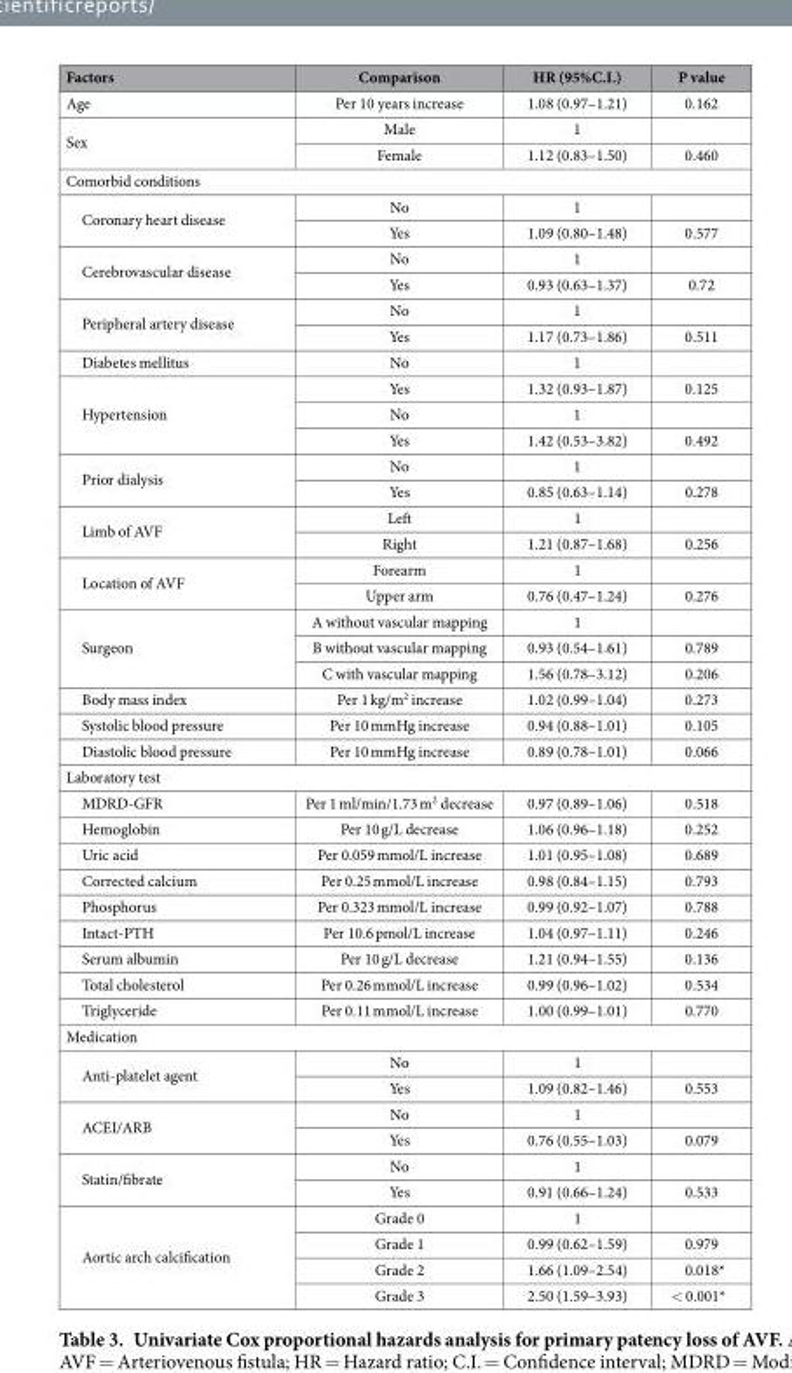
<table><thead><tr><td>Factors</td><td>Comparison</td><td>HR (95%C.I.)</td><td>P value</td></tr></thead><tbody><tr><td>Age</td><td>Per 10 years increase</td><td>1.08 (0.97–1.21)</td><td>0.162</td></tr><tr><td rowspan="2">Sex</td><td>Male</td><td>1</td><td></td></tr><tr><td>Female</td><td>1.12 (0.83–1.50)</td><td>0.460</td></tr><tr><td colspan="4">Comorbid conditions</td></tr><tr><td rowspan="2">Coronary heart disease</td><td>No</td><td>1</td><td></td></tr><tr><td>Yes</td><td>1.09 (0.80–1.48)</td><td>0.577</td></tr><tr><td rowspan="2">Cerebrovascular disease</td><td>No</td><td>1</td><td></td></tr><tr><td>Yes</td><td>0.93 (0.63–1.37)</td><td>0.72</td></tr><tr><td rowspan="2">Peripheral artery disease</td><td>No</td><td>1</td><td></td></tr><tr><td>Yes</td><td>1.17 (0.73–1.86)</td><td>0.511</td></tr><tr><td>Diabetes mellitus</td><td>No</td><td>1</td><td></td></tr><tr><td rowspan="3">Hypertension</td><td>Yes</td><td>1.32 (0.93–1.87)</td><td>0.125</td></tr><tr><td>No</td><td>1</td><td></td></tr><tr><td>Yes</td><td>1.42 (0.53–3.82)</td><td>0.492</td></tr><tr><td rowspan="2">Prior dialysis</td><td>No</td><td>1</td><td></td></tr><tr><td>Yes</td><td>0.85 (0.63–1.14)</td><td>0.278</td></tr><tr><td rowspan="2">Limb of AVF</td><td>Left</td><td>1</td><td></td></tr><tr><td>Right</td><td>1.21 (0.87–1.68)</td><td>0.256</td></tr><tr><td rowspan="2">Location of AVF</td><td>Forearm</td><td>1</td><td></td></tr><tr><td>Upper arm</td><td>0.76 (0.47–1.24)</td><td>0.276</td></tr><tr><td rowspan="3">Surgeon</td><td>A without vascular mapping</td><td>1</td><td></td></tr><tr><td>B without vascular mapping</td><td>0.93 (0.54–1.61)</td><td>0.789</td></tr><tr><td>C with vascular mapping</td><td>1.56 (0.78–3.12)</td><td>0.206</td></tr><tr><td>Body mass index</td><td>Per 1 kg/m<sup>2</sup> increase</td><td>1.02 (0.99–1.04)</td><td>0.273</td></tr><tr><td>Systolic blood pressure</td><td>Per 10 mmHg increase</td><td>0.94 (0.88–1.01)</td><td>0.105</td></tr><tr><td>Diastolic blood pressure</td><td>Per 10 mmHg increase</td><td>0.89 (0.78–1.01)</td><td>0.066</td></tr><tr><td colspan="4">Laboratory test</td></tr><tr><td>MDRD-GFR</td><td>Per 1 ml/min/1.73 m<sup>2</sup> decrease</td><td>0.97 (0.89–1.06)</td><td>0.518</td></tr><tr><td>Hemoglobin</td><td>Per 10 g/L decrease</td><td>1.06 (0.96–1.18)</td><td>0.252</td></tr><tr><td>Uric acid</td><td>Per 0.059 mmol/L increase</td><td>1.01 (0.95–1.08)</td><td>0.689</td></tr><tr><td>Corrected calcium</td><td>Per 0.25 mmol/L increase</td><td>0.98 (0.84–1.15)</td><td>0.793</td></tr><tr><td>Phosphorus</td><td>Per 0.323 mmol/L increase</td><td>0.99 (0.92–1.07)</td><td>0.788</td></tr><tr><td>Intact-PTH</td><td>Per 10.6 pmol/L increase</td><td>1.04 (0.97–1.11)</td><td>0.246</td></tr><tr><td>Serum albumin</td><td>Per 10 g/L decrease</td><td>1.21 (0.94–1.55)</td><td>0.136</td></tr><tr><td>Total cholesterol</td><td>Per 0.26 mmol/L increase</td><td>0.99 (0.96–1.02)</td><td>0.534</td></tr><tr><td>Triglyceride</td><td>Per 0.11 mmol/L increase</td><td>1.00 (0.99–1.01)</td><td>0.770</td></tr><tr><td colspan="4">Medication</td></tr><tr><td rowspan="2">Anti-platelet agent</td><td>No</td><td>1</td><td></td></tr><tr><td>Yes</td><td>1.09 (0.82–1.46)</td><td>0.553</td></tr><tr><td rowspan="2">ACEI/ARB</td><td>No</td><td>1</td><td></td></tr><tr><td>Yes</td><td>0.76 (0.55–1.03)</td><td>0.079</td></tr><tr><td rowspan="2">Statin/fibrate</td><td>No</td><td>1</td><td></td></tr><tr><td>Yes</td><td>0.91 (0.66–1.24)</td><td>0.533</td></tr><tr><td rowspan="4">Aortic arch calcification</td><td>Grade 0</td><td>1</td><td></td></tr><tr><td>Grade 1</td><td>0.99 (0.62–1.59)</td><td>0.979</td></tr><tr><td>Grade 2</td><td>1.66 (1.09–2.54)</td><td>0.018*</td></tr><tr><td>Grade 3</td><td>2.50 (1.59–3.93)</td><td>&lt; 0.001*</td></tr></tbody></table>